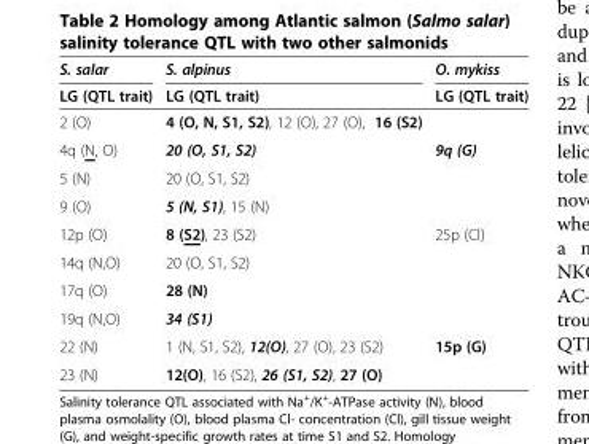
<table><thead><tr><td rowspan="2">S. salar LG (QTL trait)</td><td rowspan="2">S. alpinus LG (QTL trait)</td><td rowspan="2">O. mykiss LG (QTL trait)</td></tr><tr></tr></thead><tbody><tr><td>2 (O)</td><td>4 (O, N, S1, S2), 12 (O), 27 (O), 16 (S2)</td><td></td></tr><tr><td>4q (N, O)</td><td>20 (O, S1, S2)</td><td>9q (G)</td></tr><tr><td>5 (N)</td><td>20 (O, S1, S2)</td><td></td></tr><tr><td>9 (O)</td><td>5 (N, S1), 15 (N)</td><td></td></tr><tr><td>12p (O)</td><td>8 (S2), 23 (S2)</td><td>25p (Cl)</td></tr><tr><td>14q (N,O)</td><td>20 (O, S1, S2)</td><td></td></tr><tr><td>17q (O)</td><td>28 (N)</td><td></td></tr><tr><td>19q (N,O)</td><td>34 (S1)</td><td></td></tr><tr><td>22 (N)</td><td>1 (N, S1, S2), 12(O), 27 (O), 23 (S2)</td><td>15p (G)</td></tr><tr><td>23 (N)</td><td>12(O), 16 (S2), 26 (S1, S2), 27 (O)</td><td></td></tr></tbody></table>